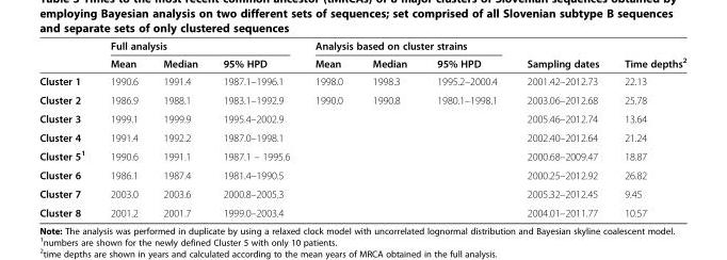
<table><thead><tr><td rowspan="2"></td><td colspan="3">Full analysis</td><td colspan="3">Analysis based on cluster strains</td><td rowspan="2">Sampling dates</td><td rowspan="2">Time depths<sup>2</sup></td></tr><tr><td>Mean</td><td>Median</td><td>95% HPD</td><td>Mean</td><td>Median</td><td>95% HPD</td></tr></thead><tbody><tr><td>Cluster 1</td><td>1990.6</td><td>1991.4</td><td>1987.1–1996.1</td><td>1998.0</td><td>1998.3</td><td>1995.2–2000.4</td><td>2001.42–2012.73</td><td>22.13</td></tr><tr><td>Cluster 2</td><td>1986.9</td><td>1988.1</td><td>1983.1–1992.9</td><td>1990.0</td><td>1990.8</td><td>1980.1–1998.1</td><td>2003.06–2012.68</td><td>25.78</td></tr><tr><td>Cluster 3</td><td>1999.1</td><td>1999.9</td><td>1995.4–2002.9</td><td></td><td></td><td></td><td>2005.46–2012.74</td><td>13.64</td></tr><tr><td>Cluster 4</td><td>1991.4</td><td>1992.2</td><td>1987.0–1998.1</td><td></td><td></td><td></td><td>2002.40–2012.64</td><td>21.24</td></tr><tr><td>Cluster 5<sup>1</sup></td><td>1990.6</td><td>1991.1</td><td>1987.1 – 1995.6</td><td></td><td></td><td></td><td>2000.68–2009.47</td><td>18.87</td></tr><tr><td>Cluster 6</td><td>1986.1</td><td>1987.4</td><td>1981.4–1990.5</td><td></td><td></td><td></td><td>2000.25–2012.92</td><td>26.82</td></tr><tr><td>Cluster 7</td><td>2003.0</td><td>2003.6</td><td>2000.8–2005.3</td><td></td><td></td><td></td><td>2005.32–2012.45</td><td>9.45</td></tr><tr><td>Cluster 8</td><td>2001.2</td><td>2001.7</td><td>1999.0–2003.4</td><td></td><td></td><td></td><td>2004.01–2011.77</td><td>10.57</td></tr></tbody></table>